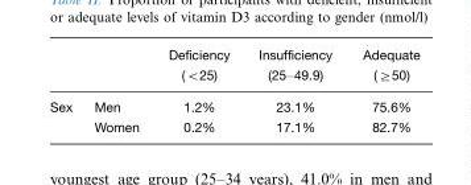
<table><thead><tr><td></td><td></td><td>Deficiency (&lt;25)</td><td>Insufficiency (25–49.9)</td><td>Adequate (≥50)</td></tr></thead><tbody><tr><td rowspan="2">Sex</td><td>Men</td><td>1.2%</td><td>23.1%</td><td>75.6%</td></tr><tr><td>Women</td><td>0.2%</td><td>17.1%</td><td>82.7%</td></tr></tbody></table>